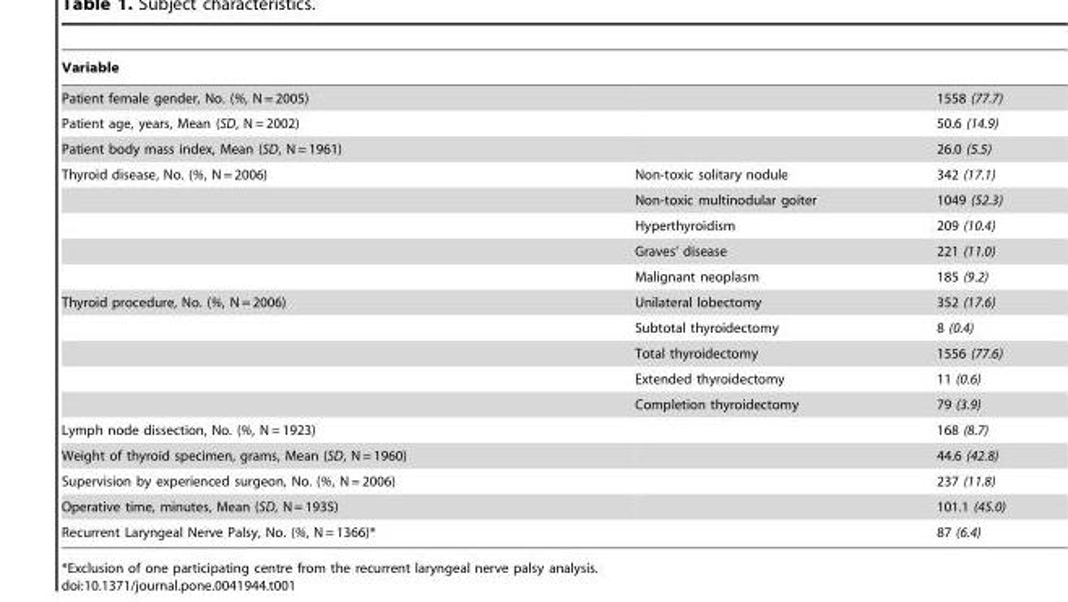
<table><thead><tr><td colspan="2">Variable</td><td rowspan="2">1558 (77.7)</td></tr><tr><td>Patient female gender, No. (%, N = 2005)</td><td></td></tr></thead><tbody><tr><td>Patient age, years, Mean (SD, N = 2002)</td><td></td><td>50.6 (14.9)</td></tr><tr><td>Patient body mass index, Mean (SD, N = 1961)</td><td></td><td>26.0 (5.5)</td></tr><tr><td rowspan="5">Thyroid disease, No. (%, N = 2006)</td><td>Non-toxic solitary nodule</td><td>342 (17.1)</td></tr><tr><td>Non-toxic multinodular goiter</td><td>1049 (52.3)</td></tr><tr><td>Hyperthyroidism</td><td>209 (10.4)</td></tr><tr><td>Graves’ disease</td><td>221 (11.0)</td></tr><tr><td>Malignant neoplasm</td><td>185 (9.2)</td></tr><tr><td rowspan="5">Thyroid procedure, No. (%, N = 2006)</td><td>Unilateral lobectomy</td><td>352 (17.6)</td></tr><tr><td>Subtotal thyroidectomy</td><td>8 (0.4)</td></tr><tr><td>Total thyroidectomy</td><td>1556 (77.6)</td></tr><tr><td>Extended thyroidectomy</td><td>11 (0.6)</td></tr><tr><td>Completion thyroidectomy</td><td>79 (3.9)</td></tr><tr><td>Lymph node dissection, No. (%, N = 1923)</td><td></td><td>168 (8.7)</td></tr><tr><td>Weight of thyroid specimen, grams, Mean (SD, N = 1960)</td><td></td><td>44.6 (42.8)</td></tr><tr><td>Supervision by experienced surgeon, No. (%, N = 2006)</td><td></td><td>237 (11.8)</td></tr><tr><td>Operative time, minutes, Mean (SD, N = 1935)</td><td></td><td>101.1 (45.0)</td></tr><tr><td>Recurrent Laryngeal Nerve Palsy, No. (%, N = 1366)*</td><td></td><td>87 (6.4)</td></tr></tbody></table>